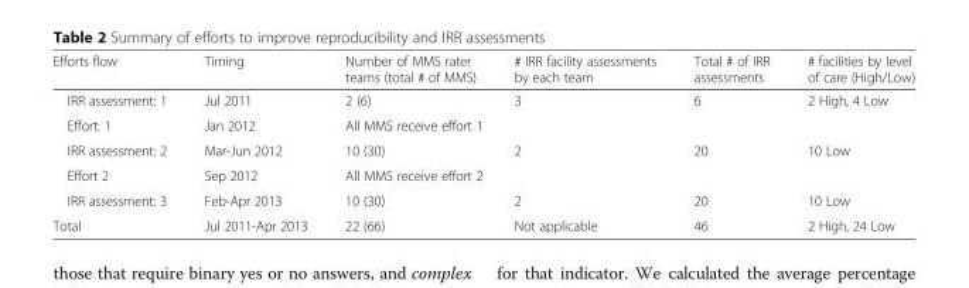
<table><thead><tr><td>Efforts flow</td><td>Timing</td><td>Number of MMS rater teams (total # of MMS)</td><td># IRR facility assessments by each team</td><td>Total # of IRR assessments</td><td># facilities by level of care (High/Low)</td></tr></thead><tbody><tr><td>IRR assessment: 1</td><td>Jul 2011</td><td>2 (6)</td><td>3</td><td>6</td><td>2 High, 4 Low</td></tr><tr><td>Effort: 1</td><td>Jan 2012</td><td colspan="4">All MMS receive effort 1</td></tr><tr><td>IRR assessment: 2</td><td>Mar-Jun 2012</td><td>10 (30)</td><td>2</td><td>20</td><td>10 Low</td></tr><tr><td>Effort 2</td><td>Sep 2012</td><td colspan="4">All MMS receive effort 2</td></tr><tr><td>IRR assessment: 3</td><td>Feb-Apr 2013</td><td>10 (30)</td><td>2</td><td>20</td><td>10 Low</td></tr><tr><td>Total</td><td>Jul 2011-Apr 2013</td><td>22 (66)</td><td>Not applicable</td><td>46</td><td>2 High, 24 Low</td></tr></tbody></table>